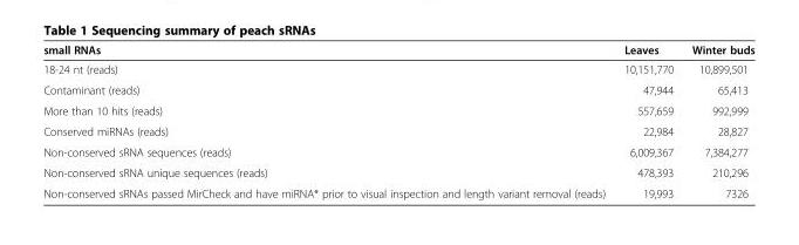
<table><thead><tr><td>small RNAs</td><td>Leaves</td><td>Winter buds</td></tr></thead><tbody><tr><td>18-24 nt (reads)</td><td>10,151,770</td><td>10,899,501</td></tr><tr><td>Contaminant (reads)</td><td>47,944</td><td>65,413</td></tr><tr><td>More than 10 hits (reads)</td><td>557,659</td><td>992,999</td></tr><tr><td>Conserved miRNAs (reads)</td><td>22,984</td><td>28,827</td></tr><tr><td>Non-conserved sRNA sequences (reads)</td><td>6,009,367</td><td>7,384,277</td></tr><tr><td>Non-conserved sRNA unique sequences (reads)</td><td>478,393</td><td>210,296</td></tr><tr><td>Non-conserved sRNAs passed MirCheck and have miRNA* prior to visual inspection and length variant removal (reads)</td><td>19,993</td><td>7326</td></tr></tbody></table>